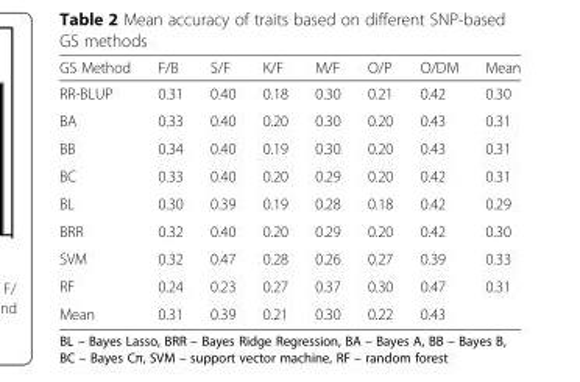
<table><thead><tr><td>GS Method</td><td>F/B</td><td>S/F</td><td>K/F</td><td>M/F</td><td>O/P</td><td>O/DM</td><td>Mean</td></tr></thead><tbody><tr><td>RR-BLUP</td><td>0.31</td><td>0.40</td><td>0.18</td><td>0.30</td><td>0.21</td><td>0.42</td><td>0.30</td></tr><tr><td>BA</td><td>0.33</td><td>0.40</td><td>0.20</td><td>0.30</td><td>0.20</td><td>0.43</td><td>0.31</td></tr><tr><td>BB</td><td>0.34</td><td>0.40</td><td>0.19</td><td>0.30</td><td>0.20</td><td>0.43</td><td>0.31</td></tr><tr><td>BC</td><td>0.33</td><td>0.40</td><td>0.20</td><td>0.29</td><td>0.20</td><td>0.42</td><td>0.31</td></tr><tr><td>BL</td><td>0.30</td><td>0.39</td><td>0.19</td><td>0.28</td><td>0.18</td><td>0.42</td><td>0.29</td></tr><tr><td>BRR</td><td>0.32</td><td>0.40</td><td>0.20</td><td>0.29</td><td>0.20</td><td>0.42</td><td>0.30</td></tr><tr><td>SVM</td><td>0.32</td><td>0.47</td><td>0.28</td><td>0.26</td><td>0.27</td><td>0.39</td><td>0.33</td></tr><tr><td>RF</td><td>0.24</td><td>0.23</td><td>0.27</td><td>0.37</td><td>0.30</td><td>0.47</td><td>0.31</td></tr><tr><td>Mean</td><td>0.31</td><td>0.39</td><td>0.21</td><td>0.30</td><td>0.22</td><td>0.43</td><td></td></tr></tbody></table>